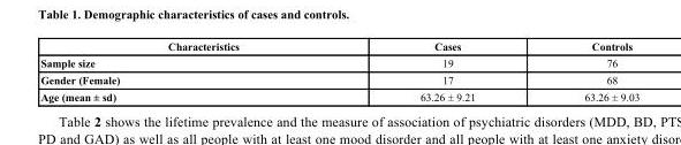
<table><thead><tr><td>Characteristics</td><td>Cases</td><td>Controls</td></tr></thead><tbody><tr><td>Sample size</td><td>19</td><td>76</td></tr><tr><td>Gender (Female)</td><td>17</td><td>68</td></tr><tr><td>Age (mean ± sd)</td><td>63.26 ± 9.21</td><td>63.26 ± 9.03</td></tr></tbody></table>